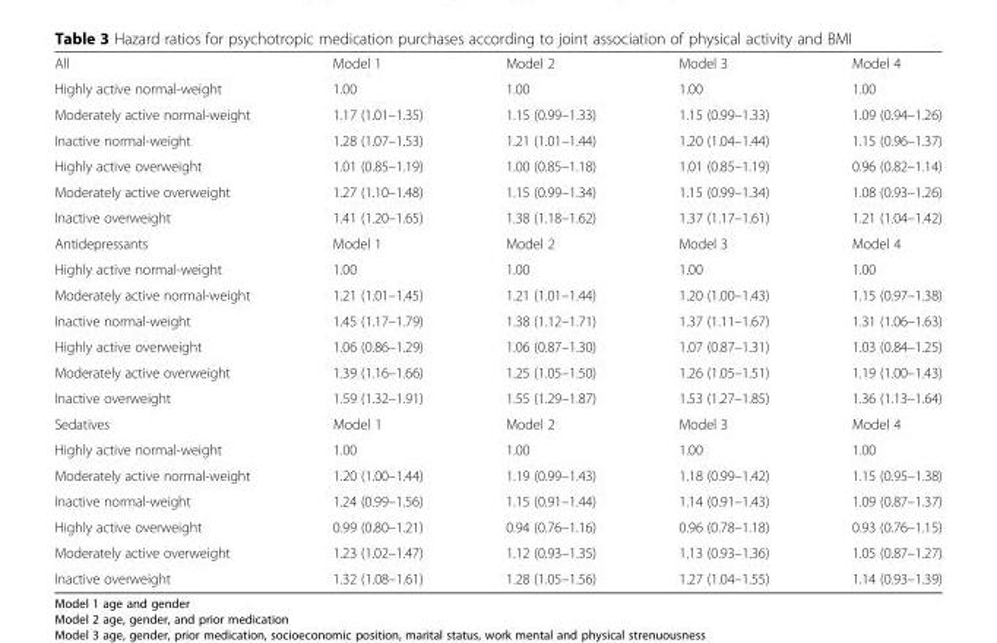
<table><tbody><tr><td>All</td><td>Model 1</td><td>Model 2</td><td>Model 3</td><td>Model 4</td></tr><tr><td>Highly active normal-weight</td><td>1.00</td><td>1.00</td><td>1.00</td><td>1.00</td></tr><tr><td>Moderately active normal-weight</td><td>1.17 (1.01–1.35)</td><td>1.15 (0.99–1.33)</td><td>1.15 (0.99–1.33)</td><td>1.09 (0.94–1.26)</td></tr><tr><td>Inactive normal-weight</td><td>1.28 (1.07–1.53)</td><td>1.21 (1.01–1.44)</td><td>1.20 (1.04–1.44)</td><td>1.15 (0.96–1.37)</td></tr><tr><td>Highly active overweight</td><td>1.01 (0.85–1.19)</td><td>1.00 (0.85–1.18)</td><td>1.01 (0.85–1.19)</td><td>0.96 (0.82–1.14)</td></tr><tr><td>Moderately active overweight</td><td>1.27 (1.10–1.48)</td><td>1.15 (0.99–1.34)</td><td>1.15 (0.99–1.34)</td><td>1.08 (0.93–1.26)</td></tr><tr><td>Inactive overweight</td><td>1.41 (1.20–1.65)</td><td>1.38 (1.18–1.62)</td><td>1.37 (1.17–1.61)</td><td>1.21 (1.04–1.42)</td></tr><tr><td>Antidepressants</td><td>Model 1</td><td>Model 2</td><td>Model 3</td><td>Model 4</td></tr><tr><td>Highly active normal-weight</td><td>1.00</td><td>1.00</td><td>1.00</td><td>1.00</td></tr><tr><td>Moderately active normal-weight</td><td>1.21 (1.01–1.45)</td><td>1.21 (1.01–1.44)</td><td>1.20 (1.00–1.43)</td><td>1.15 (0.97–1.38)</td></tr><tr><td>Inactive normal-weight</td><td>1.45 (1.17–1.79)</td><td>1.38 (1.12–1.71)</td><td>1.37 (1.11–1.67)</td><td>1.31 (1.06–1.63)</td></tr><tr><td>Highly active overweight</td><td>1.06 (0.86–1.29)</td><td>1.06 (0.87–1.30)</td><td>1.07 (0.87–1.31)</td><td>1.03 (0.84–1.25)</td></tr><tr><td>Moderately active overweight</td><td>1.39 (1.16–1.66)</td><td>1.25 (1.05–1.50)</td><td>1.26 (1.05–1.51)</td><td>1.19 (1.00–1.43)</td></tr><tr><td>Inactive overweight</td><td>1.59 (1.32–1.91)</td><td>1.55 (1.29–1.87)</td><td>1.53 (1.27–1.85)</td><td>1.36 (1.13–1.64)</td></tr><tr><td>Sedatives</td><td>Model 1</td><td>Model 2</td><td>Model 3</td><td>Model 4</td></tr><tr><td>Highly active normal-weight</td><td>1.00</td><td>1.00</td><td>1.00</td><td>1.00</td></tr><tr><td>Moderately active normal-weight</td><td>1.20 (1.00–1.44)</td><td>1.19 (0.99–1.43)</td><td>1.18 (0.99–1.42)</td><td>1.15 (0.95–1.38)</td></tr><tr><td>Inactive normal-weight</td><td>1.24 (0.99–1.56)</td><td>1.15 (0.91–1.44)</td><td>1.14 (0.91–1.43)</td><td>1.09 (0.87–1.37)</td></tr><tr><td>Highly active overweight</td><td>0.99 (0.80–1.21)</td><td>0.94 (0.76–1.16)</td><td>0.96 (0.78–1.18)</td><td>0.93 (0.76–1.15)</td></tr><tr><td>Moderately active overweight</td><td>1.23 (1.02–1.47)</td><td>1.12 (0.93–1.35)</td><td>1.13 (0.93–1.36)</td><td>1.05 (0.87–1.27)</td></tr><tr><td>Inactive overweight</td><td>1.32 (1.08–1.61)</td><td>1.28 (1.05–1.56)</td><td>1.27 (1.04–1.55)</td><td>1.14 (0.93–1.39)</td></tr></tbody></table>